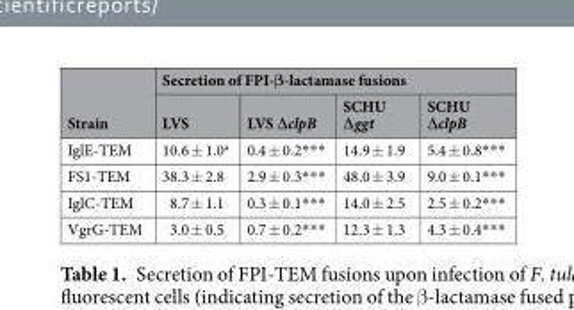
<table><thead><tr><td rowspan="2">Strain</td><td colspan="4">Secretion of FPI-β-lactamase fusions</td></tr><tr><td>LVS</td><td>LVS ∆clpB</td><td>SCHU ∆ggt</td><td>SCHU ∆clpB</td></tr></thead><tbody><tr><td>IglE-TEM</td><td>10.6 ± 1.0<sup>a</sup></td><td>0.4 ± 0.2***</td><td>14.9 ± 1.9</td><td>5.4 ± 0.8***</td></tr><tr><td>FS1-TEM</td><td>38.3 ± 2.8</td><td>2.9 ± 0.3***</td><td>48.0 ± 3.9</td><td>9.0 ± 0.1***</td></tr><tr><td>IglC-TEM</td><td>8.7 ± 1.1</td><td>0.3 ± 0.1***</td><td>14.0 ± 2.5</td><td>2.5 ± 0.2***</td></tr><tr><td>VgrG-TEM</td><td>3.0 ± 0.5</td><td>0.7 ± 0.2***</td><td>12.3 ± 1.3</td><td>4.3 ± 0.4***</td></tr></tbody></table>